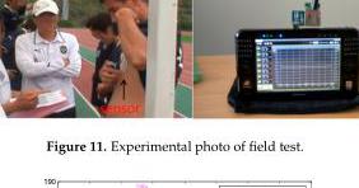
<table><thead><tr><td>Stage</td><td>Type</td><td>Distance (m)</td></tr></thead><tbody><tr><td>1</td><td>Walking</td><td>400</td></tr><tr><td>2</td><td>Brisk walking</td><td>400</td></tr><tr><td>3</td><td>Slowest running</td><td>400</td></tr><tr><td>4</td><td>Jogging</td><td>400</td></tr></tbody></table>